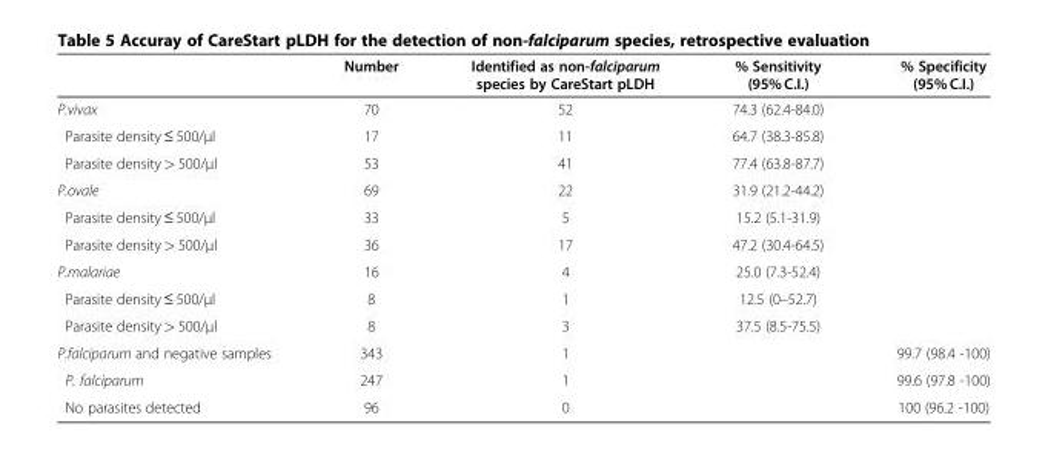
<table><thead><tr><td></td><td>Number</td><td>Identified as non-falciparum species by CareStart pLDH</td><td>% Sensitivity (95% C.I.)</td><td>% Specificity (95% C.I.)</td></tr></thead><tbody><tr><td>P.vivax</td><td>70</td><td>52</td><td>74.3 (62.4-84.0)</td><td></td></tr><tr><td>Parasite density ≤ 500/μl</td><td>17</td><td>11</td><td>64.7 (38.3-85.8)</td><td></td></tr><tr><td>Parasite density &gt; 500/μl</td><td>53</td><td>41</td><td>77.4 (63.8-87.7)</td><td></td></tr><tr><td>P.ovale</td><td>69</td><td>22</td><td>31.9 (21.2-44.2)</td><td></td></tr><tr><td>Parasite density ≤ 500/μl</td><td>33</td><td>5</td><td>15.2 (5.1-31.9)</td><td></td></tr><tr><td>Parasite density &gt; 500/μl</td><td>36</td><td>17</td><td>47.2 (30.4-64.5)</td><td></td></tr><tr><td>P.malariae</td><td>16</td><td>4</td><td>25.0 (7.3-52.4)</td><td></td></tr><tr><td>Parasite density ≤ 500/μl</td><td>8</td><td>1</td><td>12.5 (0–52.7)</td><td></td></tr><tr><td>Parasite density &gt; 500/μl</td><td>8</td><td>3</td><td>37.5 (8.5-75.5)</td><td></td></tr><tr><td>P.falciparum and negative samples</td><td>343</td><td>1</td><td></td><td>99.7 (98.4 -100)</td></tr><tr><td>P. falciparum</td><td>247</td><td>1</td><td></td><td>99.6 (97.8 -100)</td></tr><tr><td>No parasites detected</td><td>96</td><td>0</td><td></td><td>100 (96.2 -100)</td></tr></tbody></table>